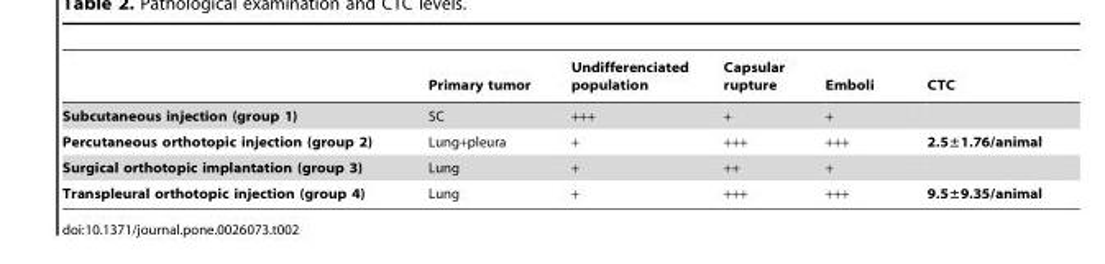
<table><thead><tr><td></td><td>Primary tumor</td><td>Undifferenciated population</td><td>Capsular rupture</td><td>Emboli</td><td>CTC</td></tr></thead><tbody><tr><td>Subcutaneous injection (group 1)</td><td>SC</td><td>+++</td><td>+</td><td>+</td><td></td></tr><tr><td>Percutaneous orthotopic injection (group 2)</td><td>Lung+pleura</td><td>+</td><td>+++</td><td>+++</td><td>2.5±1.76/animal</td></tr><tr><td>Surgical orthotopic implantation (group 3)</td><td>Lung</td><td>+</td><td>++</td><td>+</td><td></td></tr><tr><td>Transpleural orthotopic injection (group 4)</td><td>Lung</td><td>+</td><td>+++</td><td>+++</td><td>9.5±9.35/animal</td></tr></tbody></table>